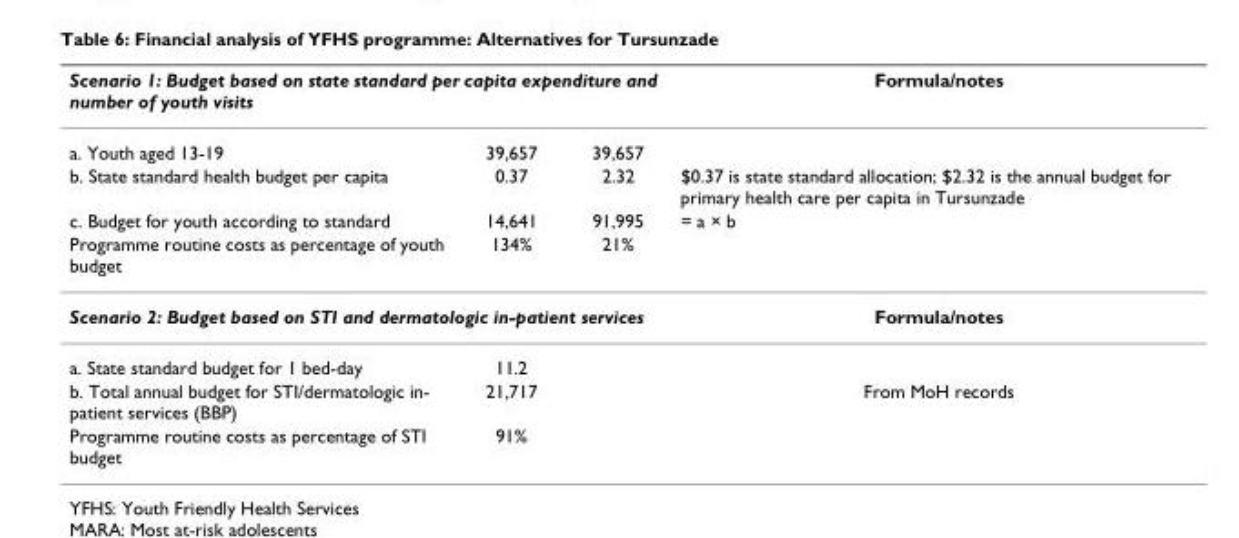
<table><thead><tr><td colspan="3">Scenario 1: Budget based on state standard per capita expenditure and number of youth visits</td><td rowspan="2">Formula/notes</td></tr><tr><td>a. Youth aged 13-19</td><td>39,657</td><td>39,657</td></tr></thead><tbody><tr><td>b. State standard health budget per capita</td><td>0.37</td><td>2.32</td><td>$0.37 is state standard allocation; $2.32 is the annual budget for primary health care per capita in Tursunzade</td></tr><tr><td>c. Budget for youth according to standard</td><td>14,641</td><td>91,995</td><td>= a × b</td></tr><tr><td>Programme routine costs as percentage of youth budget</td><td>134%</td><td>21%</td><td></td></tr><tr><td colspan="3">Scenario 2: Budget based on STI and dermatologic in-patient services</td><td>Formula/notes</td></tr><tr><td>a. State standard budget for 1 bed-day</td><td>11.2</td><td></td><td></td></tr><tr><td>b. Total annual budget for STI/dermatologic in- patient services (BBP)</td><td>21,717</td><td></td><td>From MoH records</td></tr><tr><td>Programme routine costs as percentage of STI budget</td><td>91%</td><td></td><td></td></tr></tbody></table>